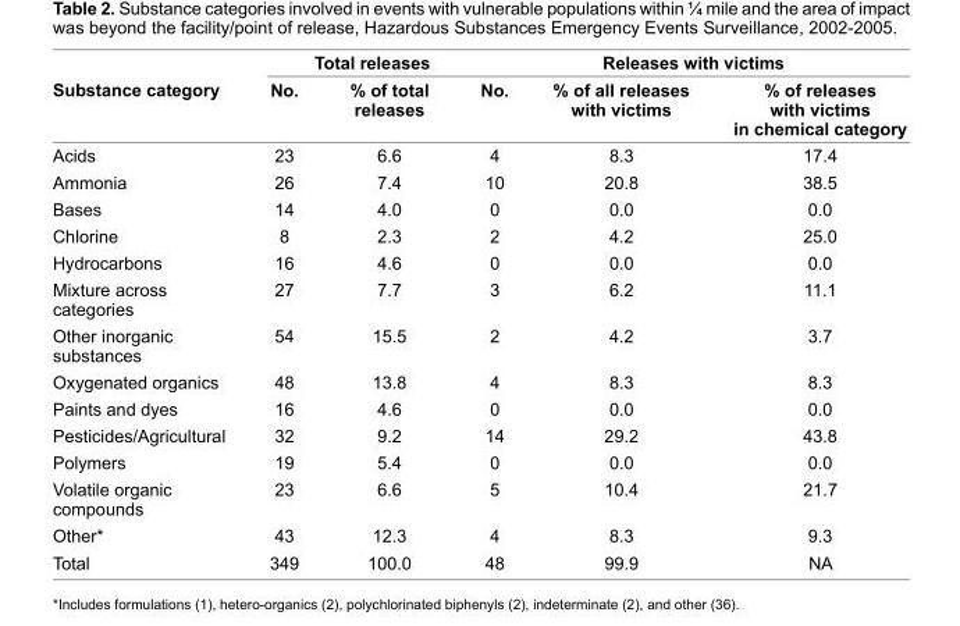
<table><thead><tr><td rowspan="2">Substance category</td><td colspan="3">Total releases</td><td colspan="2">Releases with victims</td></tr><tr><td>No.</td><td>% of total releases</td><td>No.</td><td>% of all releases with victims</td><td>% of releases with victims in chemical category</td></tr></thead><tbody><tr><td>Acids</td><td>23</td><td>6.6</td><td>4</td><td>8.3</td><td>17.4</td></tr><tr><td>Ammonia</td><td>26</td><td>7.4</td><td>10</td><td>20.8</td><td>38.5</td></tr><tr><td>Bases</td><td>14</td><td>4.0</td><td>0</td><td>0.0</td><td>0.0</td></tr><tr><td>Chlorine</td><td>8</td><td>2.3</td><td>2</td><td>4.2</td><td>25.0</td></tr><tr><td>Hydrocarbons</td><td>16</td><td>4.6</td><td>0</td><td>0.0</td><td>0.0</td></tr><tr><td>Mixture across categories</td><td>27</td><td>7.7</td><td>3</td><td>6.2</td><td>11.1</td></tr><tr><td>Other inorganic substances</td><td>54</td><td>15.5</td><td>2</td><td>4.2</td><td>3.7</td></tr><tr><td>Oxygenated organics</td><td>48</td><td>13.8</td><td>4</td><td>8.3</td><td>8.3</td></tr><tr><td>Paints and dyes</td><td>16</td><td>4.6</td><td>0</td><td>0.0</td><td>0.0</td></tr><tr><td>Pesticides/Agricultural</td><td>32</td><td>9.2</td><td>14</td><td>29.2</td><td>43.8</td></tr><tr><td>Polymers</td><td>19</td><td>5.4</td><td>0</td><td>0.0</td><td>0.0</td></tr><tr><td>Volatile organic compounds</td><td>23</td><td>6.6</td><td>5</td><td>10.4</td><td>21.7</td></tr><tr><td>Other*</td><td>43</td><td>12.3</td><td>4</td><td>8.3</td><td>9.3</td></tr><tr><td>Total</td><td>349</td><td>100.0</td><td>48</td><td>99.9</td><td>NA</td></tr></tbody></table>